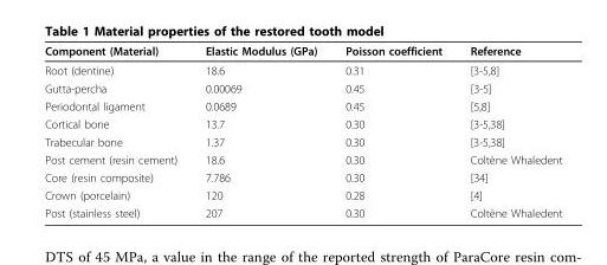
<table><thead><tr><td>Component (Material)</td><td>Elastic Modulus (GPa)</td><td>Poisson coefficient</td><td>Reference</td></tr></thead><tbody><tr><td>Root (dentine)</td><td>18.6</td><td>0.31</td><td>[3-5,8]</td></tr><tr><td>Gutta-percha</td><td>0.00069</td><td>0.45</td><td>[3-5]</td></tr><tr><td>Periodontal ligament</td><td>0.0689</td><td>0.45</td><td>[5,8]</td></tr><tr><td>Cortical bone</td><td>13.7</td><td>0.30</td><td>[3-5,38]</td></tr><tr><td>Trabecular bone</td><td>1.37</td><td>0.30</td><td>[3-5,38]</td></tr><tr><td>Post cement (resin cement)</td><td>18.6</td><td>0.30</td><td>Coltène Whaledent</td></tr><tr><td>Core (resin composite)</td><td>7.786</td><td>0.30</td><td>[34]</td></tr><tr><td>Crown (porcelain)</td><td>120</td><td>0.28</td><td>[4]</td></tr><tr><td>Post (stainless steel)</td><td>207</td><td>0.30</td><td>Coltène Whaledent</td></tr></tbody></table>